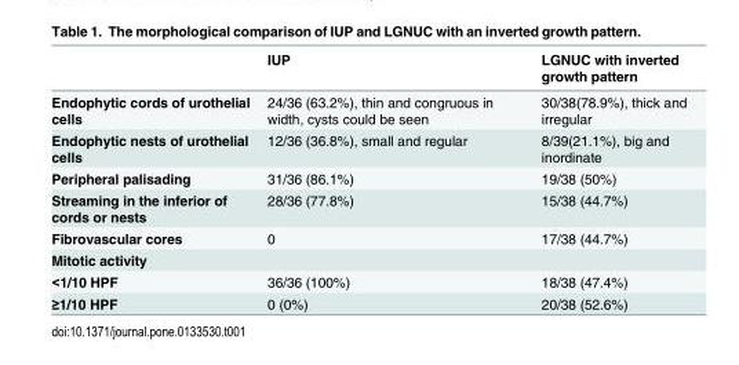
<table><thead><tr><td></td><td>IUP</td><td>LGNUC with inverted growth pattern</td></tr></thead><tbody><tr><td>Endophytic cords of urothelial cells</td><td>24/36 (63.2%), thin and congruous in width, cysts could be seen</td><td>30/38(78.9%), thick and irregular</td></tr><tr><td>Endophytic nests of urothelial cells</td><td>12/36 (36.8%), small and regular</td><td>8/39(21.1%), big and inordinate</td></tr><tr><td>Peripheral palisading</td><td>31/36 (86.1%)</td><td>19/38 (50%)</td></tr><tr><td>Streaming in the inferior of cords or nests</td><td>28/36 (77.8%)</td><td>15/38 (44.7%)</td></tr><tr><td>Fibrovascular cores</td><td>0</td><td>17/38 (44.7%)</td></tr><tr><td colspan="3">Mitotic activity</td></tr><tr><td>&lt;1/10 HPF</td><td>36/36 (100%)</td><td>18/38 (47.4%)</td></tr><tr><td>≥1/10 HPF</td><td>0 (0%)</td><td>20/38 (52.6%)</td></tr></tbody></table>